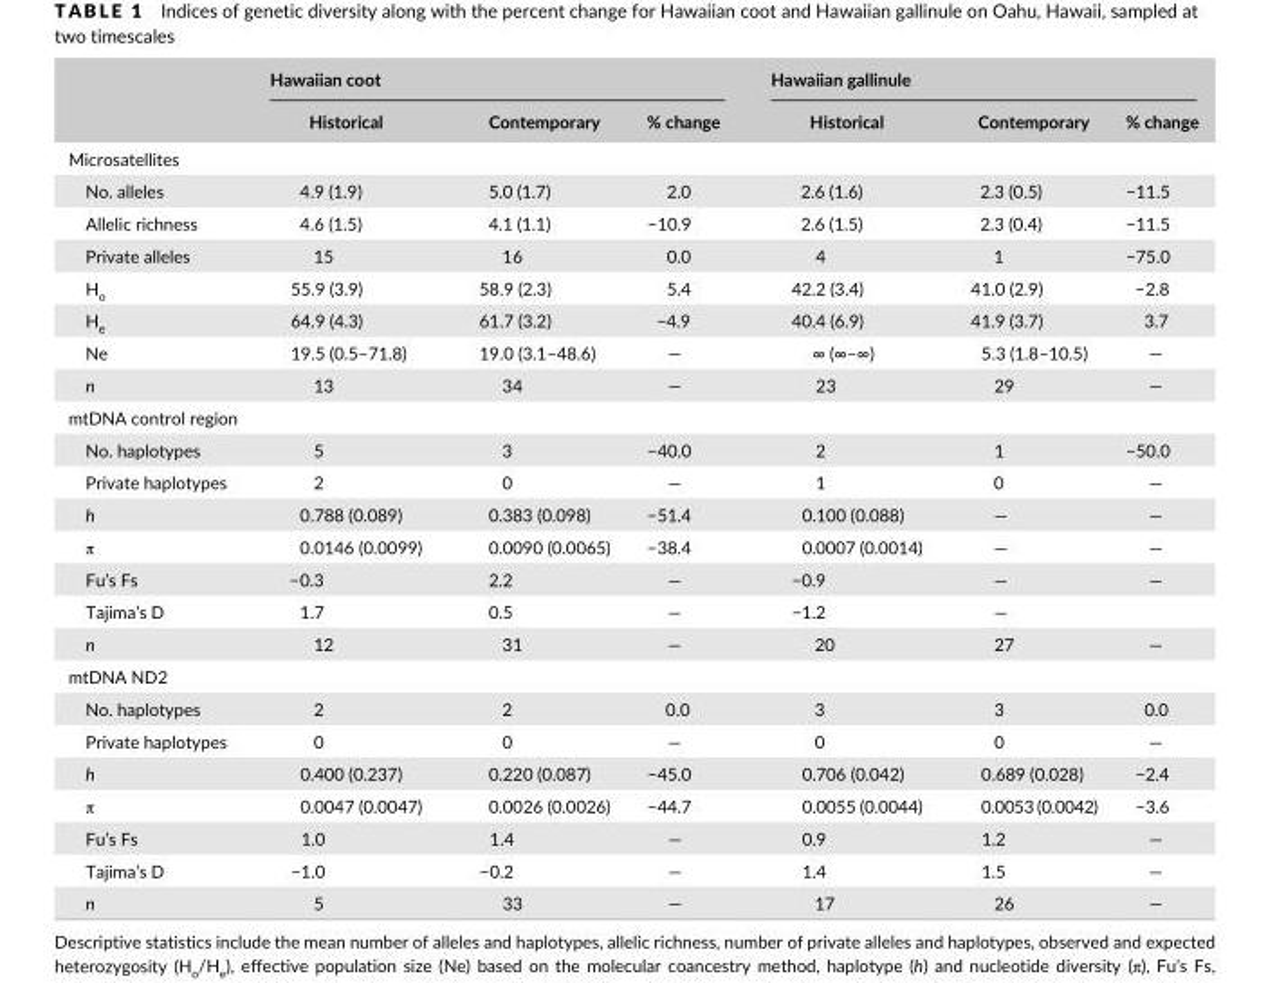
<table><thead><tr><td rowspan="2"></td><td colspan="3">Hawaiian coot</td><td colspan="3">Hawaiian gallinule</td></tr><tr><td>Historical</td><td>Contemporary</td><td>% change</td><td>Historical</td><td>Contemporary</td><td>% change</td></tr></thead><tbody><tr><td colspan="7">Microsatellites</td></tr><tr><td>No. alleles</td><td>4.9 (1.9)</td><td>5.0 (1.7)</td><td>2.0</td><td>2.6 (1.6)</td><td>2.3 (0.5)</td><td>−11.5</td></tr><tr><td>Allelic richness</td><td>4.6 (1.5)</td><td>4.1 (1.1)</td><td>−10.9</td><td>2.6 (1.5)</td><td>2.3 (0.4)</td><td>−11.5</td></tr><tr><td>Private alleles</td><td>15</td><td>16</td><td>0.0</td><td>4</td><td>1</td><td>−75.0</td></tr><tr><td>H<sub>o</sub></td><td>55.9 (3.9)</td><td>58.9 (2.3)</td><td>5.4</td><td>42.2 (3.4)</td><td>41.0 (2.9)</td><td>−2.8</td></tr><tr><td>H<sub>e</sub></td><td>64.9 (4.3)</td><td>61.7 (3.2)</td><td>−4.9</td><td>40.4 (6.9)</td><td>41.9 (3.7)</td><td>3.7</td></tr><tr><td>Ne</td><td>19.5 (0.5–71.8)</td><td>19.0 (3.1–48.6)</td><td>—</td><td>∞ (∞–∞)</td><td>5.3 (1.8–10.5)</td><td>—</td></tr><tr><td>n</td><td>13</td><td>34</td><td>—</td><td>23</td><td>29</td><td>—</td></tr><tr><td colspan="7">mtDNA control region</td></tr><tr><td>No. haplotypes</td><td>5</td><td>3</td><td>−40.0</td><td>2</td><td>1</td><td>−50.0</td></tr><tr><td>Private haplotypes</td><td>2</td><td>0</td><td>—</td><td>1</td><td>0</td><td>—</td></tr><tr><td>h</td><td>0.788 (0.089)</td><td>0.383 (0.098)</td><td>−51.4</td><td>0.100 (0.088)</td><td>—</td><td>—</td></tr><tr><td>π</td><td>0.0146 (0.0099)</td><td>0.0090 (0.0065)</td><td>−38.4</td><td>0.0007 (0.0014)</td><td>—</td><td>—</td></tr><tr><td>Fu’s Fs</td><td>−0.3</td><td>2.2</td><td>—</td><td>−0.9</td><td>—</td><td>—</td></tr><tr><td>Tajima’s D</td><td>1.7</td><td>0.5</td><td>—</td><td>−1.2</td><td>—</td><td></td></tr><tr><td>n</td><td>12</td><td>31</td><td>—</td><td>20</td><td>27</td><td>—</td></tr><tr><td colspan="7">mtDNA ND2</td></tr><tr><td>No. haplotypes</td><td>2</td><td>2</td><td>0.0</td><td>3</td><td>3</td><td>0.0</td></tr><tr><td>Private haplotypes</td><td>0</td><td>0</td><td>—</td><td>0</td><td>0</td><td>—</td></tr><tr><td>h</td><td>0.400 (0.237)</td><td>0.220 (0.087)</td><td>−45.0</td><td>0.706 (0.042)</td><td>0.689 (0.028)</td><td>−2.4</td></tr><tr><td>π</td><td>0.0047 (0.0047)</td><td>0.0026 (0.0026)</td><td>−44.7</td><td>0.0055 (0.0044)</td><td>0.0053 (0.0042)</td><td>−3.6</td></tr><tr><td>Fu’s Fs</td><td>1.0</td><td>1.4</td><td>—</td><td>0.9</td><td>1.2</td><td>—</td></tr><tr><td>Tajima’s D</td><td>−1.0</td><td>−0.2</td><td>—</td><td>1.4</td><td>1.5</td><td>—</td></tr><tr><td>n</td><td>5</td><td>33</td><td>—</td><td>17</td><td>26</td><td>—</td></tr></tbody></table>